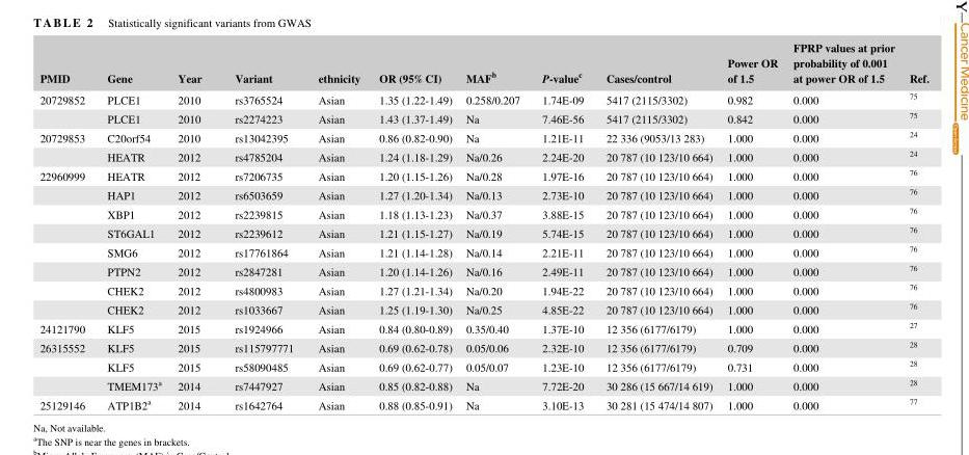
<table><thead><tr><td>PMID</td><td>Gene</td><td>Year</td><td>Variant</td><td>ethnicity</td><td>OR (95% CI)</td><td>MAF<sup>b</sup></td><td>P‐value<sup>c</sup></td><td>Cases/control</td><td>Power OR of 1.5</td><td>FPRP values at prior probability of 0.001 at power OR of 1.5</td><td>Ref.</td></tr></thead><tbody><tr><td rowspan="2">20729852</td><td>PLCE1</td><td>2010</td><td>rs3765524</td><td>Asian</td><td>1.35 (1.22‐1.49)</td><td>0.258/0.207</td><td>1.74E‐09</td><td>5417 (2115/3302)</td><td>0.982</td><td>0.000</td><td>75</td></tr><tr><td>PLCE1</td><td>2010</td><td>rs2274223</td><td>Asian</td><td>1.43 (1.37‐1.49)</td><td>Na</td><td>7.46E‐56</td><td>5417 (2115/3302)</td><td>0.842</td><td>0.000</td><td>75</td></tr><tr><td rowspan="2">20729853</td><td>C20orf54</td><td>2010</td><td>rs13042395</td><td>Asian</td><td>0.86 (0.82‐0.90)</td><td>Na</td><td>1.21E‐11</td><td>22 336 (9053/13 283)</td><td>1.000</td><td>0.000</td><td>24</td></tr><tr><td>HEATR</td><td>2012</td><td>rs4785204</td><td>Asian</td><td>1.24 (1.18‐1.29)</td><td>Na/0.26</td><td>2.24E‐20</td><td>20 787 (10 123/10 664)</td><td>1.000</td><td>0.000</td><td>24</td></tr><tr><td rowspan="8">22960999</td><td>HEATR</td><td>2012</td><td>rs7206735</td><td>Asian</td><td>1.20 (1.15‐1.26)</td><td>Na/0.28</td><td>1.97E‐16</td><td>20 787 (10 123/10 664)</td><td>1.000</td><td>0.000</td><td>76</td></tr><tr><td>HAP1</td><td>2012</td><td>rs6503659</td><td>Asian</td><td>1.27 (1.20‐1.34)</td><td>Na/0.13</td><td>2.73E‐10</td><td>20 787 (10 123/10 664)</td><td>1.000</td><td>0.000</td><td>76</td></tr><tr><td>XBP1</td><td>2012</td><td>rs2239815</td><td>Asian</td><td>1.18 (1.13‐1.23)</td><td>Na/0.37</td><td>3.88E‐15</td><td>20 787 (10 123/10 664)</td><td>1.000</td><td>0.000</td><td>76</td></tr><tr><td>ST6GAL1</td><td>2012</td><td>rs2239612</td><td>Asian</td><td>1.21 (1.15‐1.27)</td><td>Na/0.19</td><td>5.74E‐15</td><td>20 787 (10 123/10 664)</td><td>1.000</td><td>0.000</td><td>76</td></tr><tr><td>SMG6</td><td>2012</td><td>rs17761864</td><td>Asian</td><td>1.21 (1.14‐1.28)</td><td>Na/0.14</td><td>2.21E‐11</td><td>20 787 (10 123/10 664)</td><td>1.000</td><td>0.000</td><td>76</td></tr><tr><td>PTPN2</td><td>2012</td><td>rs2847281</td><td>Asian</td><td>1.20 (1.14‐1.26)</td><td>Na/0.16</td><td>2.49E‐11</td><td>20 787 (10 123/10 664)</td><td>1.000</td><td>0.000</td><td>76</td></tr><tr><td>CHEK2</td><td>2012</td><td>rs4800983</td><td>Asian</td><td>1.27 (1.21‐1.34)</td><td>Na/0.20</td><td>1.94E‐22</td><td>20 787 (10 123/10 664)</td><td>1.000</td><td>0.000</td><td>76</td></tr><tr><td>CHEK2</td><td>2012</td><td>rs1033667</td><td>Asian</td><td>1.25 (1.19‐1.30)</td><td>Na/0.25</td><td>4.85E‐22</td><td>20 787 (10 123/10 664)</td><td>1.000</td><td>0.000</td><td>76</td></tr><tr><td>24121790</td><td>KLF5</td><td>2015</td><td>rs1924966</td><td>Asian</td><td>0.84 (0.80‐0.89)</td><td>0.35/0.40</td><td>1.37E‐10</td><td>12 356 (6177/6179)</td><td>1.000</td><td>0.000</td><td>27</td></tr><tr><td rowspan="3">26315552</td><td>KLF5</td><td>2015</td><td>rs115797771</td><td>Asian</td><td>0.69 (0.62‐0.78)</td><td>0.05/0.06</td><td>2.32E‐10</td><td>12 356 (6177/6179)</td><td>0.709</td><td>0.000</td><td>28</td></tr><tr><td>KLF5</td><td>2015</td><td>rs58090485</td><td>Asian</td><td>0.69 (0.62‐0.77)</td><td>0.05/0.07</td><td>1.23E‐10</td><td>12 356 (6177/6179)</td><td>0.731</td><td>0.000</td><td>28</td></tr><tr><td>TMEM173<sup>a</sup></td><td>2014</td><td>rs7447927</td><td>Asian</td><td>0.85 (0.82‐0.88)</td><td>Na</td><td>7.72E‐20</td><td>30 286 (15 667/14 619)</td><td>1.000</td><td>0.000</td><td>28</td></tr><tr><td>25129146</td><td>ATP1B2<sup>a</sup></td><td>2014</td><td>rs1642764</td><td>Asian</td><td>0.88 (0.85‐0.91)</td><td>Na</td><td>3.10E‐13</td><td>30 281 (15 474/14 807)</td><td>1.000</td><td>0.000</td><td>77</td></tr></tbody></table>